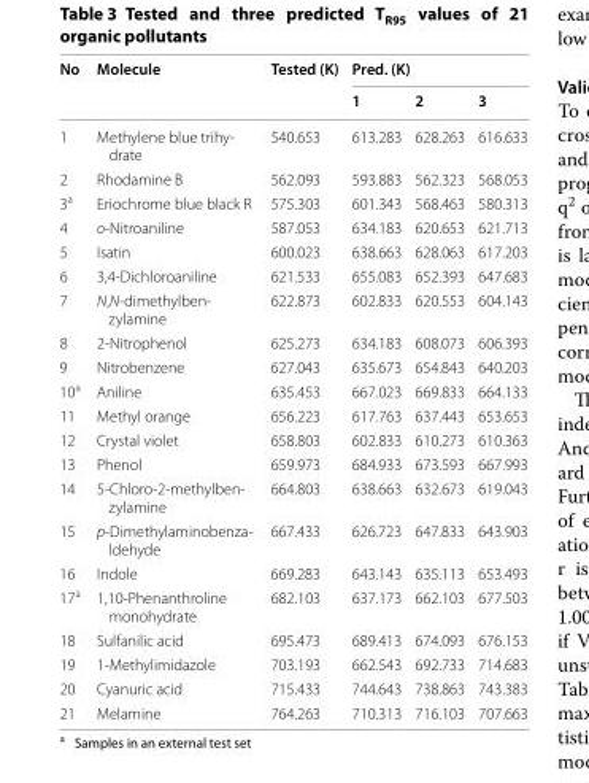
<table><thead><tr><td rowspan="2">No</td><td rowspan="2">Molecule</td><td rowspan="2">Tested (K)</td><td colspan="3">Pred. (K)</td></tr><tr><td>1</td><td>2</td><td>3</td></tr></thead><tbody><tr><td>1</td><td>Methylene blue trihy- drate</td><td>540.653</td><td>613.283</td><td>628.263</td><td>616.633</td></tr><tr><td>2</td><td>Rhodamine B</td><td>562.093</td><td>593.883</td><td>562.323</td><td>568.053</td></tr><tr><td>3<sup>a</sup></td><td>Eriochrome blue black R</td><td>575.303</td><td>601.343</td><td>568.463</td><td>580.313</td></tr><tr><td>4</td><td>o-Nitroaniline</td><td>587.053</td><td>634.183</td><td>620.653</td><td>621.713</td></tr><tr><td>5</td><td>Isatin</td><td>600.023</td><td>638.663</td><td>628.063</td><td>617.203</td></tr><tr><td>6</td><td>3,4-Dichloroaniline</td><td>621.533</td><td>655.083</td><td>652.393</td><td>647.683</td></tr><tr><td>7</td><td>N,N-dimethylben- zylamine</td><td>622.873</td><td>602.833</td><td>620.553</td><td>604.143</td></tr><tr><td>8</td><td>2-Nitrophenol</td><td>625.273</td><td>634.183</td><td>608.073</td><td>606.393</td></tr><tr><td>9</td><td>Nitrobenzene</td><td>627.043</td><td>635.673</td><td>654.843</td><td>640.203</td></tr><tr><td>10<sup>a</sup></td><td>Aniline</td><td>635.453</td><td>667.023</td><td>669.833</td><td>664.133</td></tr><tr><td>11</td><td>Methyl orange</td><td>656.223</td><td>617.763</td><td>637.443</td><td>653.653</td></tr><tr><td>12</td><td>Crystal violet</td><td>658.803</td><td>602.833</td><td>610.273</td><td>610.363</td></tr><tr><td>13</td><td>Phenol</td><td>659.973</td><td>684.933</td><td>673.593</td><td>667.993</td></tr><tr><td>14</td><td>5-Chloro-2-methylben- zylamine</td><td>664.803</td><td>638.663</td><td>632.673</td><td>619.043</td></tr><tr><td>15</td><td>p-Dimethylaminobenza- ldehyde</td><td>667.433</td><td>626.723</td><td>647.833</td><td>643.903</td></tr><tr><td>16</td><td>Indole</td><td>669.283</td><td>643.143</td><td>635.113</td><td>653.493</td></tr><tr><td>17<sup>a</sup></td><td>1,10-Phenanthroline monohydrate</td><td>682.103</td><td>637.173</td><td>662.103</td><td>677.503</td></tr><tr><td>18</td><td>Sulfanilic acid</td><td>695.473</td><td>689.413</td><td>674.093</td><td>676.153</td></tr><tr><td>19</td><td>1-Methylimidazole</td><td>703.193</td><td>662.543</td><td>692.733</td><td>714.683</td></tr><tr><td>20</td><td>Cyanuric acid</td><td>715.433</td><td>744.643</td><td>738.863</td><td>743.383</td></tr><tr><td>21</td><td>Melamine</td><td>764.263</td><td>710.313</td><td>716.103</td><td>707.663</td></tr></tbody></table>